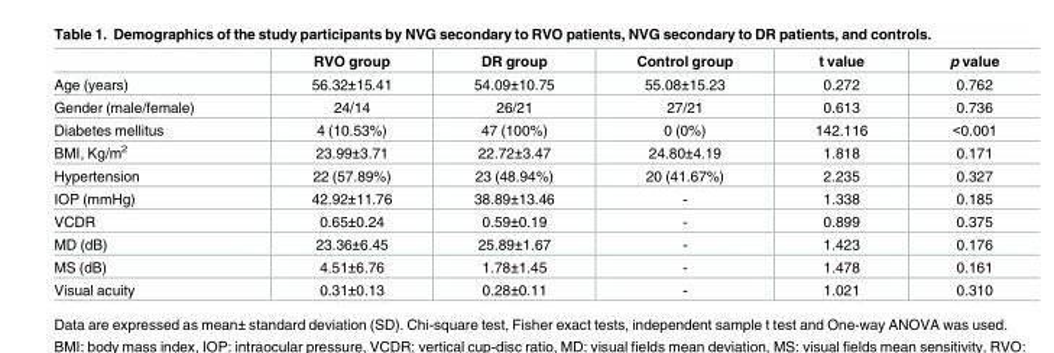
<table><thead><tr><td></td><td>RVO group</td><td>DR group</td><td>Control group</td><td>t value</td><td>p value</td></tr></thead><tbody><tr><td>Age (years)</td><td>56.32±15.41</td><td>54.09±10.75</td><td>55.08±15.23</td><td>0.272</td><td>0.762</td></tr><tr><td>Gender (male/female)</td><td>24/14</td><td>26/21</td><td>27/21</td><td>0.613</td><td>0.736</td></tr><tr><td>Diabetes mellitus</td><td>4 (10.53%)</td><td>47 (100%)</td><td>0 (0%)</td><td>142.116</td><td>&lt;0.001</td></tr><tr><td>BMI, Kg/m<sup>2</sup></td><td>23.99±3.71</td><td>22.72±3.47</td><td>24.80±4.19</td><td>1.818</td><td>0.171</td></tr><tr><td>Hypertension</td><td>22 (57.89%)</td><td>23 (48.94%)</td><td>20 (41.67%)</td><td>2.235</td><td>0.327</td></tr><tr><td>IOP (mmHg)</td><td>42.92±11.76</td><td>38.89±13.46</td><td>-</td><td>1.338</td><td>0.185</td></tr><tr><td>VCDR</td><td>0.65±0.24</td><td>0.59±0.19</td><td>-</td><td>0.899</td><td>0.375</td></tr><tr><td>MD (dB)</td><td>23.36±6.45</td><td>25.89±1.67</td><td>-</td><td>1.423</td><td>0.176</td></tr><tr><td>MS (dB)</td><td>4.51±6.76</td><td>1.78±1.45</td><td>-</td><td>1.478</td><td>0.161</td></tr><tr><td>Visual acuity</td><td>0.31±0.13</td><td>0.28±0.11</td><td>-</td><td>1.021</td><td>0.310</td></tr></tbody></table>